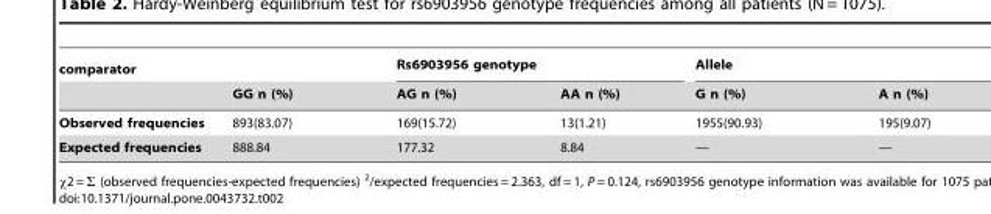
<table><thead><tr><td rowspan="2">comparator</td><td rowspan="2">GG n (%)</td><td colspan="2">Rs6903956 genotype</td><td colspan="2">Allele</td></tr><tr><td>AG n (%)</td><td>AA n (%)</td><td>G n (%)</td><td>A n (%)</td></tr></thead><tbody><tr><td>Observed frequencies</td><td>893(83.07)</td><td>169(15.72)</td><td>13(1.21)</td><td>1955(90.93)</td><td>195(9.07)</td></tr><tr><td>Expected frequencies</td><td>888.84</td><td>177.32</td><td>8.84</td><td>—</td><td>—</td></tr></tbody></table>